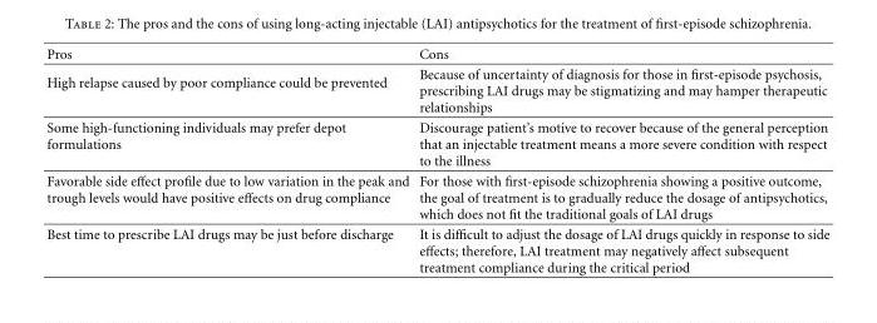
<table><thead><tr><td>Pros</td><td>Cons</td></tr></thead><tbody><tr><td>High relapse caused by poor compliance could be prevented</td><td>Because of uncertainty of diagnosis for those in first-episode psychosis, prescribing LAI drugs may be stigmatizing and may hamper therapeutic relationships</td></tr><tr><td>Some high-functioning individuals may prefer depot formulations</td><td>Discourage patient’s motive to recover because of the general perception that an injectable treatment means a more severe condition with respect to the illness</td></tr><tr><td>Favorable side effect profile due to low variation in the peak and trough levels would have positive effects on drug compliance</td><td>For those with first-episode schizophrenia showing a positive outcome, the goal of treatment is to gradually reduce the dosage of antipsychotics, which does not fit the traditional goals of LAI drugs</td></tr><tr><td>Best time to prescribe LAI drugs may be just before discharge</td><td>It is difficult to adjust the dosage of LAI drugs quickly in response to side effects; therefore, LAI treatment may negatively affect subsequent treatment compliance during the critical period</td></tr></tbody></table>